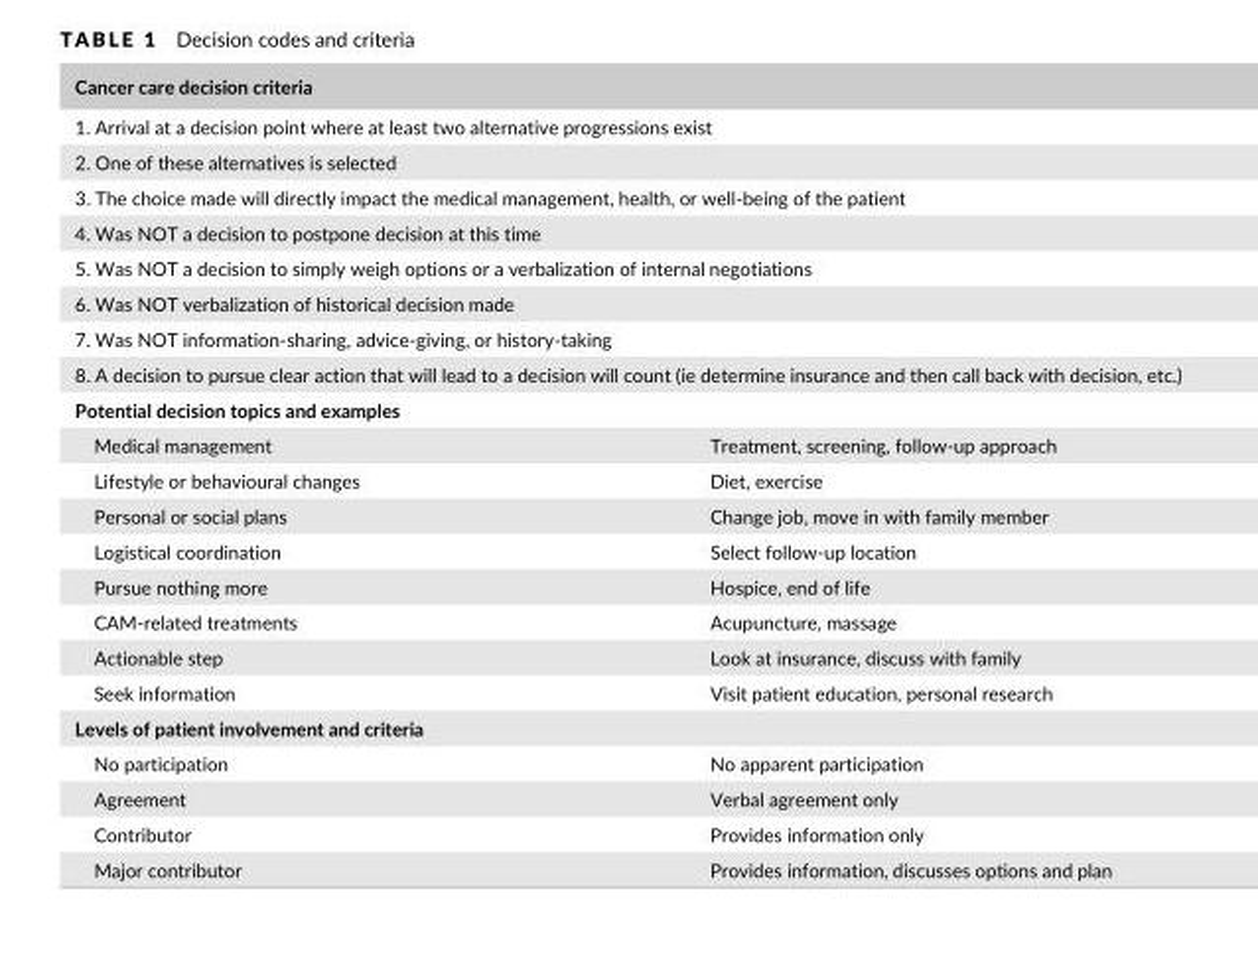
<table><thead><tr><td colspan="2">Cancer care decision criteria</td></tr></thead><tbody><tr><td colspan="2">1. Arrival at a decision point where at least two alternative progressions exist</td></tr><tr><td colspan="2">2. One of these alternatives is selected</td></tr><tr><td colspan="2">3. The choice made will directly impact the medical management, health, or well- being of the patient</td></tr><tr><td colspan="2">4. Was NOT a decision to postpone decision at this time</td></tr><tr><td colspan="2">5. Was NOT a decision to simply weigh options or a verbalization of internal negotiations</td></tr><tr><td colspan="2">6. Was NOT verbalization of historical decision made</td></tr><tr><td colspan="2">7. Was NOT information- sharing, advice- giving, or history- taking</td></tr><tr><td colspan="2">8. A decision to pursue clear action that will lead to a decision will count (ie determine insurance and then call back with decision, etc.)</td></tr><tr><td colspan="2">Potential decision topics and examples</td></tr><tr><td>Medical management</td><td>Treatment, screening, follow- up approach</td></tr><tr><td>Lifestyle or behavioural changes</td><td>Diet, exercise</td></tr><tr><td>Personal or social plans</td><td>Change job, move in with family member</td></tr><tr><td>Logistical coordination</td><td>Select follow- up location</td></tr><tr><td>Pursue nothing more</td><td>Hospice, end of life</td></tr><tr><td>CAM- related treatments</td><td>Acupuncture, massage</td></tr><tr><td>Actionable step</td><td>Look at insurance, discuss with family</td></tr><tr><td>Seek information</td><td>Visit patient education, personal research</td></tr><tr><td colspan="2">Levels of patient involvement and criteria</td></tr><tr><td>No participation</td><td>No apparent participation</td></tr><tr><td>Agreement</td><td>Verbal agreement only</td></tr><tr><td>Contributor</td><td>Provides information only</td></tr><tr><td>Major contributor</td><td>Provides information, discusses options and plan</td></tr></tbody></table>